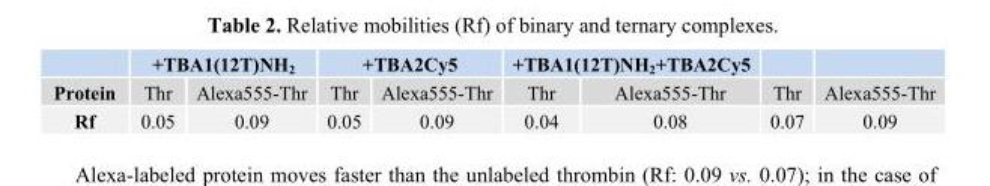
<table><thead><tr><td rowspan="2">Protein</td><td colspan="2">+TBA1(12T)NH<sub>2</sub></td><td colspan="2">+TBA2Cy5</td><td colspan="2">+TBA1(12T)NH<sub>2</sub>+TBA2Cy5</td><td rowspan="2">Thr</td><td rowspan="2">Alexa555-Thr</td></tr><tr><td>Thr</td><td>Alexa555-Thr</td><td>Thr</td><td>Alexa555-Thr</td><td>Thr</td><td>Alexa555-Thr</td></tr></thead><tbody><tr><td>Rf</td><td>0.05</td><td>0.09</td><td>0.05</td><td>0.09</td><td>0.04</td><td>0.08</td><td>0.07</td><td>0.09</td></tr></tbody></table>